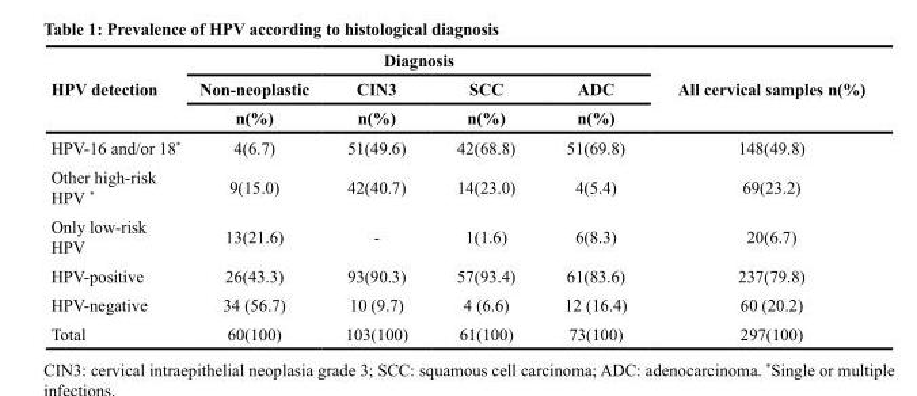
<table><thead><tr><td rowspan="3">HPV detection</td><td colspan="4">Diagnosis</td><td rowspan="3">All cervical samples n(%)</td></tr><tr><td rowspan="2">Non-neoplastic n(%)</td><td rowspan="2">CIN3 n(%)</td><td rowspan="2">SCC n(%)</td><td rowspan="2">ADC n(%)</td></tr><tr></tr></thead><tbody><tr><td>HPV-16 and/or 18*</td><td>4(6.7)</td><td>51(49.6)</td><td>42(68.8)</td><td>51(69.8)</td><td>148(49.8)</td></tr><tr><td>Other high-risk HPV *</td><td>9(15.0)</td><td>42(40.7)</td><td>14(23.0)</td><td>4(5.4)</td><td>69(23.2)</td></tr><tr><td>Only low-risk HPV</td><td>13(21.6)</td><td>-</td><td>1(1.6)</td><td>6(8.3)</td><td>20(6.7)</td></tr><tr><td>HPV-positive</td><td>26(43.3)</td><td>93(90.3)</td><td>57(93.4)</td><td>61(83.6)</td><td>237(79.8)</td></tr><tr><td>HPV-negative</td><td>34 (56.7)</td><td>10 (9.7)</td><td>4 (6.6)</td><td>12 (16.4)</td><td>60 (20.2)</td></tr><tr><td>Total</td><td>60(100)</td><td>103(100)</td><td>61(100)</td><td>73(100)</td><td>297(100)</td></tr></tbody></table>